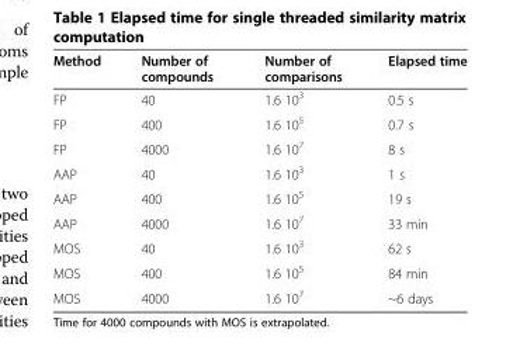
<table><thead><tr><td>Method</td><td>Number of compounds</td><td>Number of comparisons</td><td>Elapsed time</td></tr></thead><tbody><tr><td>FP</td><td>40</td><td>1.6 10<sup>3</sup></td><td>0.5 s</td></tr><tr><td>FP</td><td>400</td><td>1.6 10<sup>5</sup></td><td>0.7 s</td></tr><tr><td>FP</td><td>4000</td><td>1.6 10<sup>7</sup></td><td>8 s</td></tr><tr><td>AAP</td><td>40</td><td>1.6 10<sup>3</sup></td><td>1 s</td></tr><tr><td>AAP</td><td>400</td><td>1.6 10<sup>5</sup></td><td>19 s</td></tr><tr><td>AAP</td><td>4000</td><td>1.6 10<sup>7</sup></td><td>33 min</td></tr><tr><td>MOS</td><td>40</td><td>1.6 10<sup>3</sup></td><td>62 s</td></tr><tr><td>MOS</td><td>400</td><td>1.6 10<sup>5</sup></td><td>84 min</td></tr><tr><td>MOS</td><td>4000</td><td>1.6 10<sup>7</sup></td><td>~6 days</td></tr></tbody></table>